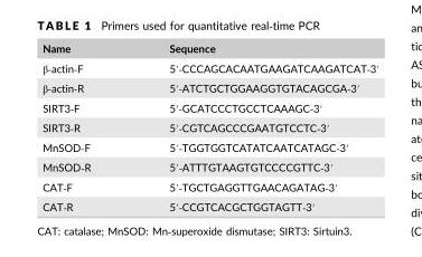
<table><thead><tr><td>Name</td><td>Sequence</td></tr></thead><tbody><tr><td>β‐actin‐F</td><td>5′‐CCCAGCACAATGAAGATCAAGATCAT‐3′</td></tr><tr><td>β‐actin‐R</td><td>5′‐ATCTGCTGGAAGGTGTACAGCGA‐3′</td></tr><tr><td>SIRT3‐F</td><td>5′‐GCATCCCTGCCTCAAAGC‐3′</td></tr><tr><td>SIRT3‐R</td><td>5′‐CGTCAGCCCGAATGTCCTC‐3′</td></tr><tr><td>MnSOD‐F</td><td>5′‐TGGTGGTCATATCAATCATAGC‐3′</td></tr><tr><td>MnSOD‐R</td><td>5′‐ATTTGTAAGTGTCCCCGTTC‐3′</td></tr><tr><td>CAT‐F</td><td>5′‐TGCTGAGGTTGAACAGATAG‐3′</td></tr><tr><td>CAT‐R</td><td>5′‐CCGTCACGCTGGTAGTT‐3′</td></tr></tbody></table>